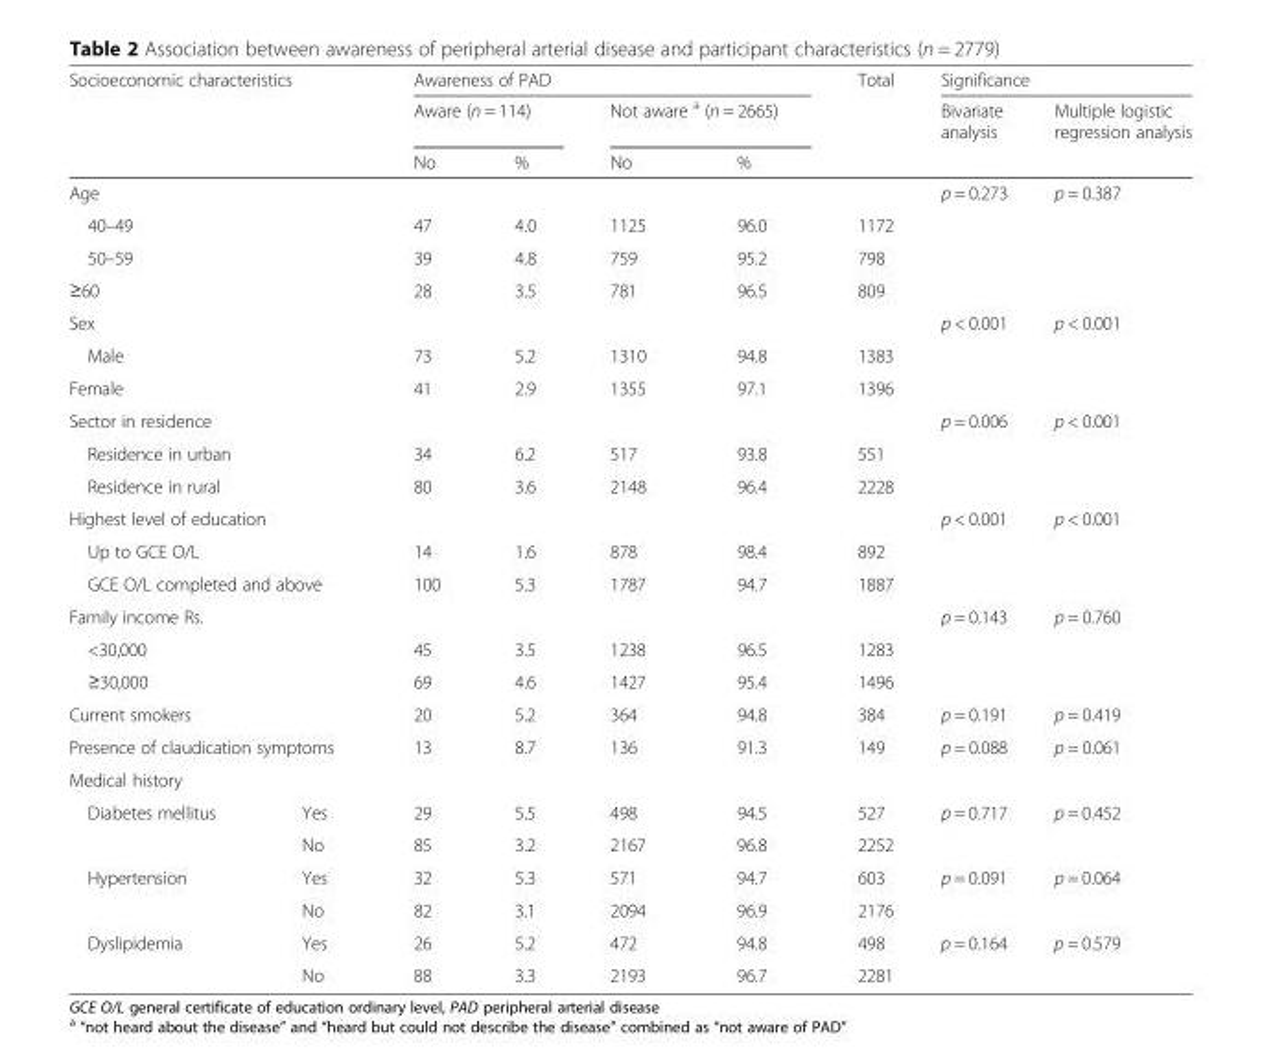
<table><thead><tr><td rowspan="3" colspan="2">Socioeconomic characteristics</td><td colspan="4">Awareness of PAD</td><td rowspan="3">Total</td><td colspan="2">Significance</td></tr><tr><td colspan="2">Aware (n = 114)</td><td colspan="2">Not aware <sup>a</sup> (n = 2665)</td><td rowspan="2">Bivariate analysis</td><td rowspan="2">Multiple logistic regression analysis</td></tr><tr><td>No</td><td>%</td><td>No</td><td>%</td></tr></thead><tbody><tr><td colspan="7">Age</td><td rowspan="4">p = 0.273</td><td rowspan="4">p = 0.387</td></tr><tr><td colspan="2">40–49</td><td>47</td><td>4.0</td><td>1125</td><td>96.0</td><td>1172</td></tr><tr><td colspan="2">50–59</td><td>39</td><td>4.8</td><td>759</td><td>95.2</td><td>798</td></tr><tr><td colspan="2">≥60</td><td>28</td><td>3.5</td><td>781</td><td>96.5</td><td>809</td></tr><tr><td colspan="7">Sex</td><td rowspan="3">p &lt; 0.001</td><td rowspan="3">p &lt; 0.001</td></tr><tr><td colspan="2">Male</td><td>73</td><td>5.2</td><td>1310</td><td>94.8</td><td>1383</td></tr><tr><td colspan="2">Female</td><td>41</td><td>2.9</td><td>1355</td><td>97.1</td><td>1396</td></tr><tr><td colspan="7">Sector in residence</td><td rowspan="3">p = 0.006</td><td rowspan="3">p &lt; 0.001</td></tr><tr><td colspan="2">Residence in urban</td><td>34</td><td>6.2</td><td>517</td><td>93.8</td><td>551</td></tr><tr><td colspan="2">Residence in rural</td><td>80</td><td>3.6</td><td>2148</td><td>96.4</td><td>2228</td></tr><tr><td colspan="7">Highest level of education</td><td rowspan="3">p &lt; 0.001</td><td rowspan="3">p &lt; 0.001</td></tr><tr><td colspan="2">Up to GCE O/L</td><td>14</td><td>1.6</td><td>878</td><td>98.4</td><td>892</td></tr><tr><td colspan="2">GCE O/L completed and above</td><td>100</td><td>5.3</td><td>1787</td><td>94.7</td><td>1887</td></tr><tr><td colspan="7">Family income Rs.</td><td rowspan="3">p = 0.143</td><td rowspan="3">p = 0.760</td></tr><tr><td colspan="2">&lt;30,000</td><td>45</td><td>3.5</td><td>1238</td><td>96.5</td><td>1283</td></tr><tr><td colspan="2">≥30,000</td><td>69</td><td>4.6</td><td>1427</td><td>95.4</td><td>1496</td></tr><tr><td colspan="2">Current smokers</td><td>20</td><td>5.2</td><td>364</td><td>94.8</td><td>384</td><td>p = 0.191</td><td>p = 0.419</td></tr><tr><td colspan="2">Presence of claudication symptoms</td><td>13</td><td>8.7</td><td>136</td><td>91.3</td><td>149</td><td>p = 0.088</td><td>p = 0.061</td></tr><tr><td colspan="9">Medical history</td></tr><tr><td rowspan="2">Diabetes mellitus</td><td>Yes</td><td>29</td><td>5.5</td><td>498</td><td>94.5</td><td>527</td><td rowspan="2">p = 0.717</td><td rowspan="2">p = 0.452</td></tr><tr><td>No</td><td>85</td><td>3.2</td><td>2167</td><td>96.8</td><td>2252</td></tr><tr><td rowspan="2">Hypertension</td><td>Yes</td><td>32</td><td>5.3</td><td>571</td><td>94.7</td><td>603</td><td rowspan="2">p = 0.091</td><td rowspan="2">p = 0.064</td></tr><tr><td>No</td><td>82</td><td>3.1</td><td>2094</td><td>96.9</td><td>2176</td></tr><tr><td rowspan="2">Dyslipidemia</td><td>Yes</td><td>26</td><td>5.2</td><td>472</td><td>94.8</td><td>498</td><td rowspan="2">p = 0.164</td><td rowspan="2">p = 0.579</td></tr><tr><td>No</td><td>88</td><td>3.3</td><td>2193</td><td>96.7</td><td>2281</td></tr></tbody></table>